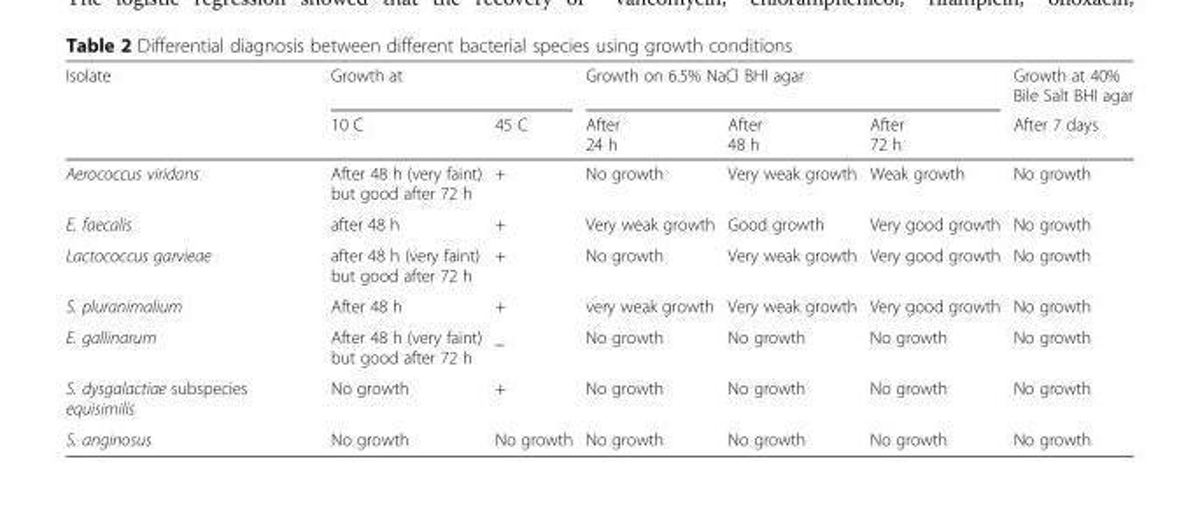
<table><thead><tr><td rowspan="2">Isolate</td><td colspan="2">Growth at</td><td colspan="3">Growth on 6.5% NaCl BHI agar</td><td rowspan="2">Growth at 40% Bile Salt BHI agar After 7 days</td></tr><tr><td>10 C</td><td>45 C</td><td>After 24 h</td><td>After 48 h</td><td>After 72 h</td></tr></thead><tbody><tr><td>Aerococcus viridans</td><td>After 48 h (very faint) but good after 72 h</td><td>+</td><td>No growth</td><td>Very weak growth</td><td>Weak growth</td><td>No growth</td></tr><tr><td>E. faecalis</td><td>after 48 h</td><td>+</td><td>Very weak growth</td><td>Good growth</td><td>Very good growth</td><td>No growth</td></tr><tr><td>Lactococcus garvieae</td><td>after 48 h (very faint) but good after 72 h</td><td>+</td><td>No growth</td><td>Very weak growth</td><td>Very good growth</td><td>No growth</td></tr><tr><td>S. pluranimalium</td><td>After 48 h</td><td>+</td><td>very weak growth</td><td>Very weak growth</td><td>Very good growth</td><td>No growth</td></tr><tr><td>E. gallinarum</td><td>After 48 h (very faint) but good after 72 h</td><td>_</td><td>No growth</td><td>No growth</td><td>No growth</td><td>No growth</td></tr><tr><td>S. dysgalactiae subspecies equisimilis</td><td>No growth</td><td>+</td><td>No growth</td><td>No growth</td><td>No growth</td><td>No growth</td></tr><tr><td>S. anginosus</td><td>No growth</td><td>No growth</td><td>No growth</td><td>No growth</td><td>No growth</td><td>No growth</td></tr></tbody></table>